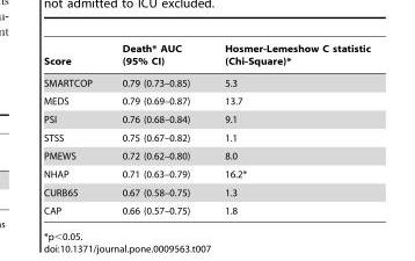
<table><thead><tr><td>Score</td><td>Death* AUC (95% CI)</td><td>Hosmer-Lemeshow C statistic (Chi-Square)*</td></tr></thead><tbody><tr><td>SMARTCOP</td><td>0.79 (0.73–0.85)</td><td>5.3</td></tr><tr><td>MEDS</td><td>0.79 (0.69–0.87)</td><td>13.7</td></tr><tr><td>PSI</td><td>0.76 (0.68–0.84)</td><td>9.1</td></tr><tr><td>STSS</td><td>0.75 (0.67–0.82)</td><td>1.1</td></tr><tr><td>PMEWS</td><td>0.72 (0.62–0.80)</td><td>8.0</td></tr><tr><td>NHAP</td><td>0.71 (0.63–0.79)</td><td>16.2*</td></tr><tr><td>CURB65</td><td>0.67 (0.58–0.75)</td><td>1.3</td></tr><tr><td>CAP</td><td>0.66 (0.57–0.75)</td><td>1.8</td></tr></tbody></table>